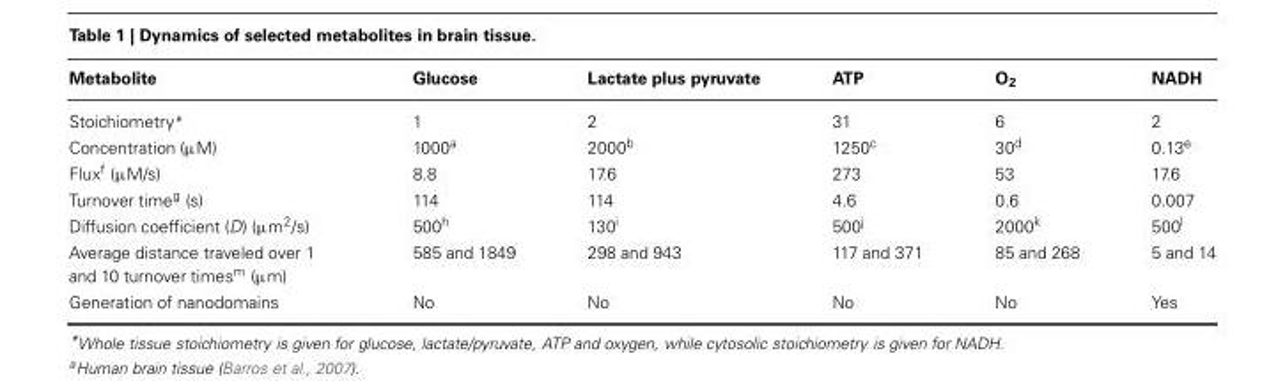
<table><thead><tr><td>Metabolite</td><td>Glucose</td><td>Lactate plus pyruvate</td><td>ATP</td><td>O<sub>2</sub></td><td>NADH</td></tr></thead><tbody><tr><td>Stoichiometry*</td><td>1</td><td>2</td><td>31</td><td>6</td><td>2</td></tr><tr><td>Concentration (μM)</td><td>1000<sup>a</sup></td><td>2000<sup>b</sup></td><td>1250<sup>c</sup></td><td>30<sup>d</sup></td><td>0.13<sup>e</sup></td></tr><tr><td>Flux<sup>f</sup> (μM/s)</td><td>8.8</td><td>17.6</td><td>273</td><td>53</td><td>17.6</td></tr><tr><td>Turnover time<sup>g</sup> (s)</td><td>114</td><td>114</td><td>4.6</td><td>0.6</td><td>0.007</td></tr><tr><td>Diffusion coefficient (D) (μm<sup>2</sup>/s)</td><td>500<sup>h</sup></td><td>130<sup>i</sup></td><td>500<sup>j</sup></td><td>2000<sup>k</sup></td><td>500<sup>l</sup></td></tr><tr><td>Average distance traveled over 1 and 10 turnover times<sup>m</sup> (μm)</td><td>585 and 1849</td><td>298 and 943</td><td>117 and 371</td><td>85 and 268</td><td>5 and 14</td></tr><tr><td>Generation of nanodomains</td><td>No</td><td>No</td><td>No</td><td>No</td><td>Yes</td></tr></tbody></table>